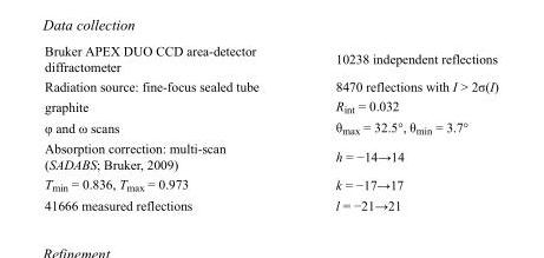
<table><tbody><tr><td>Bruker APEX DUO CCD area-detector diffractometer</td><td>10238 independent reflections</td></tr><tr><td>Radiation source: fine-focus sealed tube</td><td>8470 reflections with I &gt; 2σ(I)</td></tr><tr><td>graphite</td><td>R<sub>int</sub> = 0.032</td></tr><tr><td>φ and ω scans</td><td>θ<sub>max</sub> = 32.5°, θ<sub>min</sub> = 3.7°</td></tr><tr><td>Absorption correction: multi-scan (SADABS; Bruker, 2009)</td><td>h = −14→14</td></tr><tr><td>T<sub>min</sub> = 0.836, T<sub>max</sub> = 0.973</td><td>k = −17→17</td></tr><tr><td>41666 measured reflections</td><td>l = −21→21</td></tr></tbody></table>